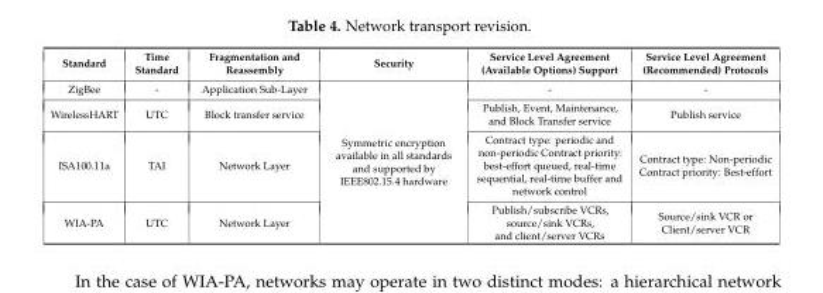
<table><thead><tr><td>Standard</td><td>Time Standard</td><td>Fragmentation and Reassembly</td><td>Security</td><td>Service Level Agreement (Available Options) Support</td><td>Service Level Agreement (Recommended) Protocols</td></tr></thead><tbody><tr><td>ZigBee</td><td>-</td><td>Application Sub-Layer</td><td rowspan="4">Symmetric encryption available in all standards and supported by IEEE802.15.4 hardware</td><td>-</td><td>-</td></tr><tr><td>WirelessHART</td><td>UTC</td><td>Block transfer service</td><td>Publish, Event, Maintenance, and Block Transfer service</td><td>Publish service</td></tr><tr><td>ISA100.11a</td><td>TAI</td><td>Network Layer</td><td>Contract type: periodic and non-periodic Contract priority: best-effort queued, real-time sequential, real-time buffer and network control</td><td>Contract type: Non-periodic Contract priority: Best-effort</td></tr><tr><td>WIA-PA</td><td>UTC</td><td>Network Layer</td><td>Publish/subscribe VCRs, source/sink VCRs, and client/server VCRs</td><td>Source/sink VCR or Client/server VCR</td></tr></tbody></table>